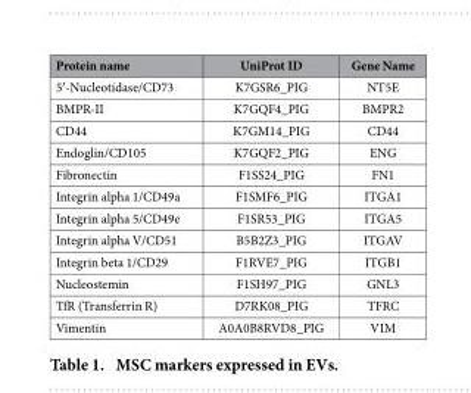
<table><thead><tr><td>Protein name</td><td>UniProt ID</td><td>Gene Name</td></tr></thead><tbody><tr><td>5′ -Nucleotidase/CD73</td><td>K7GSR6_PIG</td><td>NT5E</td></tr><tr><td>BMPR-II</td><td>K7GQF4_PIG</td><td>BMPR2</td></tr><tr><td>CD44</td><td>K7GM14_PIG</td><td>CD44</td></tr><tr><td>Endoglin/CD105</td><td>K7GQF2_PIG</td><td>ENG</td></tr><tr><td>Fibronectin</td><td>F1SS24_PIG</td><td>FN1</td></tr><tr><td>Integrin alpha 1/CD49a</td><td>F1SMF6_PIG</td><td>ITGA1</td></tr><tr><td>Integrin alpha 5/CD49e</td><td>F1SR53_PIG</td><td>ITGA5</td></tr><tr><td>Integrin alpha V/CD51</td><td>B5B2Z3_PIG</td><td>ITGAV</td></tr><tr><td>Integrin beta 1/CD29</td><td>F1RVE7_PIG</td><td>ITGB1</td></tr><tr><td>Nucleostemin</td><td>F1SH97_PIG</td><td>GNL3</td></tr><tr><td>TfR (Transferrin R)</td><td>D7RK08_PIG</td><td>TFRC</td></tr><tr><td>Vimentin</td><td>A0A0B8RVD8_PIG</td><td>VIM</td></tr></tbody></table>